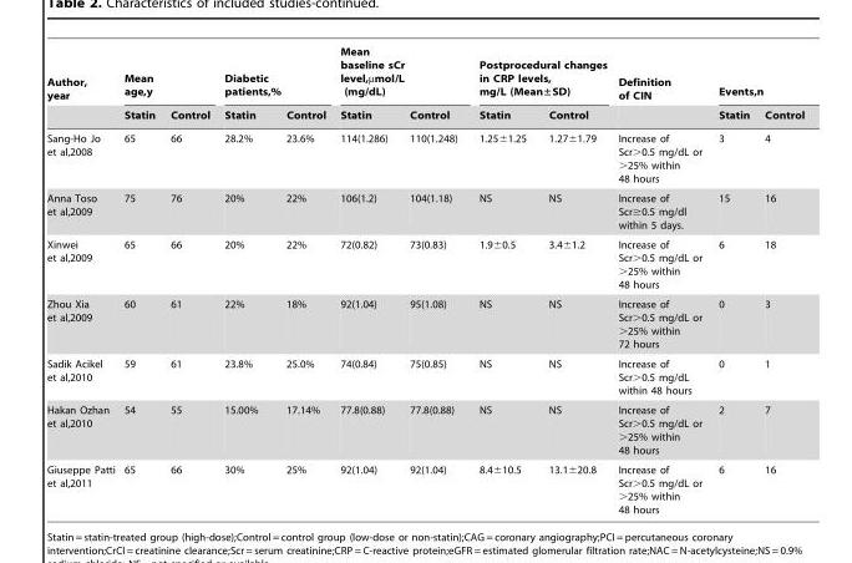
<table><thead><tr><td rowspan="2">Author, year</td><td colspan="2">Mean age,y</td><td colspan="2">Diabetic patients,%</td><td colspan="2">Mean baseline sCr level,µmol/L (mg/dL)</td><td colspan="2">Postprocedural changes in CRP levels, mg/L (Mean±SD)</td><td rowspan="2">Definition of CIN</td><td colspan="2">Events,n</td></tr><tr><td>Statin</td><td>Control</td><td>Statin</td><td>Control</td><td>Statin</td><td>Control</td><td>Statin</td><td>Control</td><td>Statin</td><td>Control</td></tr></thead><tbody><tr><td>Sang-Ho Jo et al,2008</td><td>65</td><td>66</td><td>28.2%</td><td>23.6%</td><td>114(1.286)</td><td>110(1.248)</td><td>1.25±1.25</td><td>1.27±1.79</td><td>Increase of Scr&gt;0.5 mg/dL or &gt;25% within 48 hours</td><td>3</td><td>4</td></tr><tr><td>Anna Toso et al,2009</td><td>75</td><td>76</td><td>20%</td><td>22%</td><td>106(1.2)</td><td>104(1.18)</td><td>NS</td><td>NS</td><td>Increase of Scr≥0.5 mg/dl within 5 days.</td><td>15</td><td>16</td></tr><tr><td>Xinwei et al,2009</td><td>65</td><td>66</td><td>20%</td><td>22%</td><td>72(0.82)</td><td>73(0.83)</td><td>1.9±0.5</td><td>3.4±1.2</td><td>Increase of Scr&gt;0.5 mg/dL or &gt;25% within 48 hours</td><td>6</td><td>18</td></tr><tr><td>Zhou Xia et al,2009</td><td>60</td><td>61</td><td>22%</td><td>18%</td><td>92(1.04)</td><td>95(1.08)</td><td>NS</td><td>NS</td><td>Increase of Scr&gt;0.5 mg/dL or &gt;25% within 72 hours</td><td>0</td><td>3</td></tr><tr><td>Sadik Acikel et al,2010</td><td>59</td><td>61</td><td>23.8%</td><td>25.0%</td><td>74(0.84)</td><td>75(0.85)</td><td>NS</td><td>NS</td><td>Increase of Scr&gt;0.5 mg/dL within 48 hours</td><td>0</td><td>1</td></tr><tr><td>Hakan Ozhan et al,2010</td><td>54</td><td>55</td><td>15.00%</td><td>17.14%</td><td>77.8(0.88)</td><td>77.8(0.88)</td><td>NS</td><td>NS</td><td>Increase of Scr&gt;0.5 mg/dL or &gt;25% within 48 hours</td><td>2</td><td>7</td></tr><tr><td>Giuseppe Patti et al,2011</td><td>65</td><td>66</td><td>30%</td><td>25%</td><td>92(1.04)</td><td>92(1.04)</td><td>8.4±10.5</td><td>13.1±20.8</td><td>Increase of Scr&gt;0.5 mg/dL or &gt;25% within 48 hours</td><td>6</td><td>16</td></tr></tbody></table>